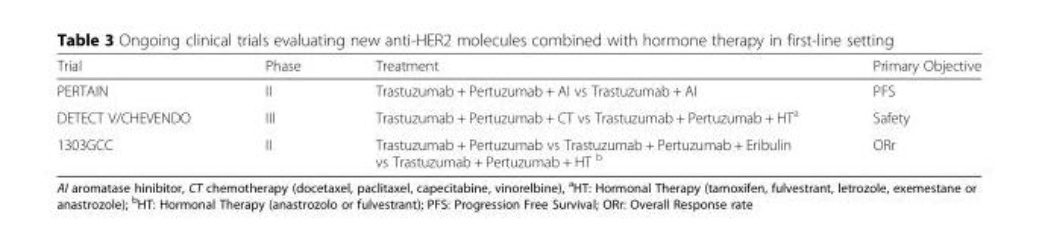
<table><thead><tr><td>Trial</td><td>Phase</td><td>Treatment</td><td>Primary Objective</td></tr></thead><tbody><tr><td>PERTAIN</td><td>II</td><td>Trastuzumab + Pertuzumab + AI vs Trastuzumab + AI</td><td>PFS</td></tr><tr><td>DETECT V/CHEVENDO</td><td>III</td><td>Trastuzumab + Pertuzumab + CT vs Trastuzumab + Pertuzumab + HT<sup>a</sup></td><td>Safety</td></tr><tr><td>1303GCC</td><td>II</td><td>Trastuzumab + Pertuzumab vs Trastuzumab + Pertuzumab + Eribulin vs Trastuzumab + Pertuzumab + HT <sup>b</sup></td><td>ORr</td></tr></tbody></table>